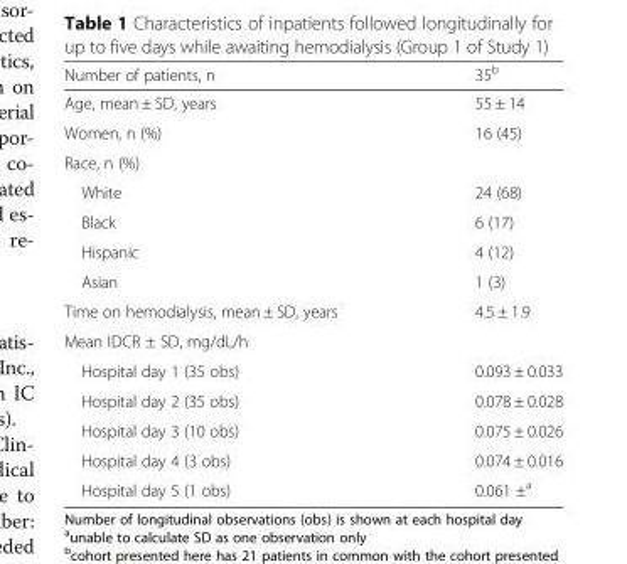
<table><thead><tr><td>Number of patients, n</td><td>35<sup>b</sup></td></tr></thead><tbody><tr><td>Age, mean ± SD, years</td><td>55 ± 14</td></tr><tr><td>Women, n (%)</td><td>16 (45)</td></tr><tr><td colspan="2">Race, n (%)</td></tr><tr><td>White</td><td>24 (68)</td></tr><tr><td>Black</td><td>6 (17)</td></tr><tr><td>Hispanic</td><td>4 (12)</td></tr><tr><td>Asian</td><td>1 (3)</td></tr><tr><td>Time on hemodialysis, mean ± SD, years</td><td>4.5 ± 1.9</td></tr><tr><td colspan="2">Mean IDCR ± SD, mg/dL/h</td></tr><tr><td>Hospital day 1 (35 obs)</td><td>0.093 ± 0.033</td></tr><tr><td>Hospital day 2 (35 obs)</td><td>0.078 ± 0.028</td></tr><tr><td>Hospital day 3 (10 obs)</td><td>0.075 ± 0.026</td></tr><tr><td>Hospital day 4 (3 obs)</td><td>0.074 ± 0.016</td></tr><tr><td>Hospital day 5 (1 obs)</td><td>0.061 ±<sup>a</sup></td></tr></tbody></table>